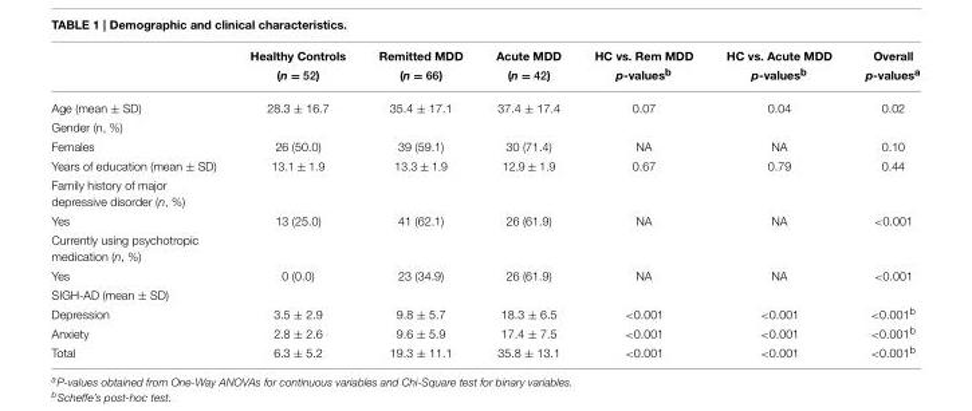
<table><thead><tr><td rowspan="2"></td><td rowspan="2">Healthy Controls (n = 52)</td><td rowspan="2">Remitted MDD (n = 66)</td><td rowspan="2">Acute MDD (n = 42)</td><td rowspan="2">HC vs. Rem MDD p-values<sup>b</sup></td><td rowspan="2">HC vs. Acute MDD p-values<sup>b</sup></td><td rowspan="2">Overall p-values<sup>a</sup></td></tr><tr></tr></thead><tbody><tr><td>Age (mean ± SD)</td><td>28.3 ± 16.7</td><td>35.4 ± 17.1</td><td>37.4 ± 17.4</td><td>0.07</td><td>0.04</td><td>0.02</td></tr><tr><td colspan="7">Gender (n, %)</td></tr><tr><td>Females</td><td>26 (50.0)</td><td>39 (59.1)</td><td>30 (71.4)</td><td>NA</td><td>NA</td><td>0.10</td></tr><tr><td>Years of education (mean ± SD)</td><td>13.1 ± 1.9</td><td>13.3 ± 1.9</td><td>12.9 ± 1.9</td><td>0.67</td><td>0.79</td><td>0.44</td></tr><tr><td colspan="7">Family history of major depressive disorder (n, %)</td></tr><tr><td>Yes</td><td>13 (25.0)</td><td>41 (62.1)</td><td>26 (61.9)</td><td>NA</td><td>NA</td><td>&lt;0.001</td></tr><tr><td colspan="7">Currently using psychotropic medication (n, %)</td></tr><tr><td>Yes</td><td>0 (0.0)</td><td>23 (34.9)</td><td>26 (61.9)</td><td>NA</td><td>NA</td><td>&lt;0.001</td></tr><tr><td colspan="7">SIGH-AD (mean ± SD)</td></tr><tr><td>Depression</td><td>3.5 ± 2.9</td><td>9.8 ± 5.7</td><td>18.3 ± 6.5</td><td>&lt;0.001</td><td>&lt;0.001</td><td>&lt;0.001<sup>b</sup></td></tr><tr><td>Anxiety</td><td>2.8 ± 2.6</td><td>9.6 ± 5.9</td><td>17.4 ± 7.5</td><td>&lt;0.001</td><td>&lt;0.001</td><td>&lt;0.001<sup>b</sup></td></tr><tr><td>Total</td><td>6.3 ± 5.2</td><td>19.3 ± 11.1</td><td>35.8 ± 13.1</td><td>&lt;0.001</td><td>&lt;0.001</td><td>&lt;0.001<sup>b</sup></td></tr></tbody></table>